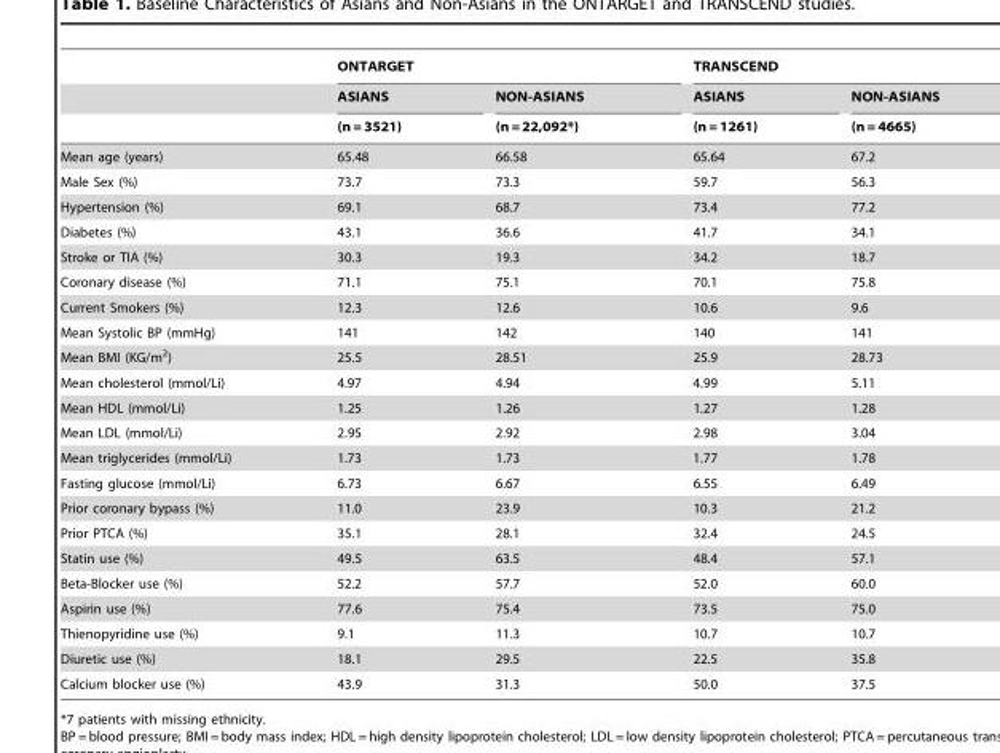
<table><thead><tr><td rowspan="3"></td><td colspan="2">ONTARGET</td><td colspan="2">TRANSCEND</td></tr><tr><td rowspan="2">ASIANS (n = 3521)</td><td rowspan="2">NON-ASIANS (n = 22,092*)</td><td rowspan="2">ASIANS (n = 1261)</td><td rowspan="2">NON-ASIANS (n = 4665)</td></tr><tr></tr></thead><tbody><tr><td>Mean age (years)</td><td>65.48</td><td>66.58</td><td>65.64</td><td>67.2</td></tr><tr><td>Male Sex (%)</td><td>73.7</td><td>73.3</td><td>59.7</td><td>56.3</td></tr><tr><td>Hypertension (%)</td><td>69.1</td><td>68.7</td><td>73.4</td><td>77.2</td></tr><tr><td>Diabetes (%)</td><td>43.1</td><td>36.6</td><td>41.7</td><td>34.1</td></tr><tr><td>Stroke or TIA (%)</td><td>30.3</td><td>19.3</td><td>34.2</td><td>18.7</td></tr><tr><td>Coronary disease (%)</td><td>71.1</td><td>75.1</td><td>70.1</td><td>75.8</td></tr><tr><td>Current Smokers (%)</td><td>12.3</td><td>12.6</td><td>10.6</td><td>9.6</td></tr><tr><td>Mean Systolic BP (mmHg)</td><td>141</td><td>142</td><td>140</td><td>141</td></tr><tr><td>Mean BMI (KG/m<sup>2</sup>)</td><td>25.5</td><td>28.51</td><td>25.9</td><td>28.73</td></tr><tr><td>Mean cholesterol (mmol/Li)</td><td>4.97</td><td>4.94</td><td>4.99</td><td>5.11</td></tr><tr><td>Mean HDL (mmol/Li)</td><td>1.25</td><td>1.26</td><td>1.27</td><td>1.28</td></tr><tr><td>Mean LDL (mmol/Li)</td><td>2.95</td><td>2.92</td><td>2.98</td><td>3.04</td></tr><tr><td>Mean triglycerides (mmol/Li)</td><td>1.73</td><td>1.73</td><td>1.77</td><td>1.78</td></tr><tr><td>Fasting glucose (mmol/Li)</td><td>6.73</td><td>6.67</td><td>6.55</td><td>6.49</td></tr><tr><td>Prior coronary bypass (%)</td><td>11.0</td><td>23.9</td><td>10.3</td><td>21.2</td></tr><tr><td>Prior PTCA (%)</td><td>35.1</td><td>28.1</td><td>32.4</td><td>24.5</td></tr><tr><td>Statin use (%)</td><td>49.5</td><td>63.5</td><td>48.4</td><td>57.1</td></tr><tr><td>Beta-Blocker use (%)</td><td>52.2</td><td>57.7</td><td>52.0</td><td>60.0</td></tr><tr><td>Aspirin use (%)</td><td>77.6</td><td>75.4</td><td>73.5</td><td>75.0</td></tr><tr><td>Thienopyridine use (%)</td><td>9.1</td><td>11.3</td><td>10.7</td><td>10.7</td></tr><tr><td>Diuretic use (%)</td><td>18.1</td><td>29.5</td><td>22.5</td><td>35.8</td></tr><tr><td>Calcium blocker use (%)</td><td>43.9</td><td>31.3</td><td>50.0</td><td>37.5</td></tr></tbody></table>